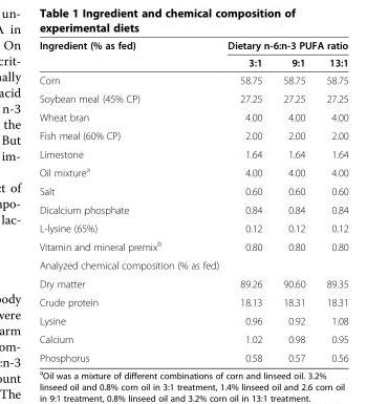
<table><thead><tr><td rowspan="2">Ingredient (% as fed)</td><td colspan="3">Dietary n-6:n-3 PUFA ratio</td></tr><tr><td>3:1</td><td>9:1</td><td>13:1</td></tr></thead><tbody><tr><td>Corn</td><td>58.75</td><td>58.75</td><td>58.75</td></tr><tr><td>Soybean meal (45% CP)</td><td>27.25</td><td>27.25</td><td>27.25</td></tr><tr><td>Wheat bran</td><td>4.00</td><td>4.00</td><td>4.00</td></tr><tr><td>Fish meal (60% CP)</td><td>2.00</td><td>2.00</td><td>2.00</td></tr><tr><td>Limestone</td><td>1.64</td><td>1.64</td><td>1.64</td></tr><tr><td>Oil mixture<sup>a</sup></td><td>4.00</td><td>4.00</td><td>4.00</td></tr><tr><td>Salt</td><td>0.60</td><td>0.60</td><td>0.60</td></tr><tr><td>Dicalcium phosphate</td><td>0.84</td><td>0.84</td><td>0.84</td></tr><tr><td>L-lysine (65%)</td><td>0.12</td><td>0.12</td><td>0.12</td></tr><tr><td>Vitamin and mineral premix<sup>b</sup></td><td>0.80</td><td>0.80</td><td>0.80</td></tr><tr><td colspan="4">Analyzed chemical composition (% as fed)</td></tr><tr><td>Dry matter</td><td>89.26</td><td>90.60</td><td>89.35</td></tr><tr><td>Crude protein</td><td>18.13</td><td>18.31</td><td>18.31</td></tr><tr><td>Lysine</td><td>0.96</td><td>0.92</td><td>1.08</td></tr><tr><td>Calcium</td><td>1.02</td><td>0.98</td><td>0.95</td></tr><tr><td>Phosphorus</td><td>0.58</td><td>0.57</td><td>0.56</td></tr></tbody></table>